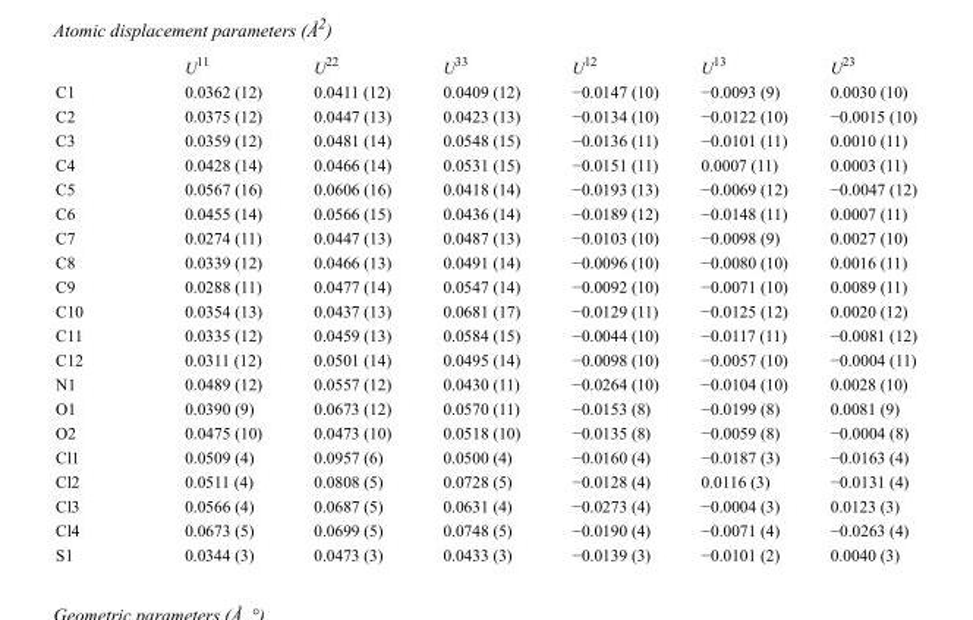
<table><thead><tr><td></td><td>U<sup>11</sup></td><td>U<sup>22</sup></td><td>U<sup>33</sup></td><td>U<sup>12</sup></td><td>U<sup>13</sup></td><td>U<sup>23</sup></td></tr></thead><tbody><tr><td>C1</td><td>0.0362 (12)</td><td>0.0411 (12)</td><td>0.0409 (12)</td><td>−0.0147 (10)</td><td>−0.0093 (9)</td><td>0.0030 (10)</td></tr><tr><td>C2</td><td>0.0375 (12)</td><td>0.0447 (13)</td><td>0.0423 (13)</td><td>−0.0134 (10)</td><td>−0.0122 (10)</td><td>−0.0015 (10)</td></tr><tr><td>C3</td><td>0.0359 (12)</td><td>0.0481 (14)</td><td>0.0548 (15)</td><td>−0.0136 (11)</td><td>−0.0101 (11)</td><td>0.0010 (11)</td></tr><tr><td>C4</td><td>0.0428 (14)</td><td>0.0466 (14)</td><td>0.0531 (15)</td><td>−0.0151 (11)</td><td>0.0007 (11)</td><td>0.0003 (11)</td></tr><tr><td>C5</td><td>0.0567 (16)</td><td>0.0606 (16)</td><td>0.0418 (14)</td><td>−0.0193 (13)</td><td>−0.0069 (12)</td><td>−0.0047 (12)</td></tr><tr><td>C6</td><td>0.0455 (14)</td><td>0.0566 (15)</td><td>0.0436 (14)</td><td>−0.0189 (12)</td><td>−0.0148 (11)</td><td>0.0007 (11)</td></tr><tr><td>C7</td><td>0.0274 (11)</td><td>0.0447 (13)</td><td>0.0487 (13)</td><td>−0.0103 (10)</td><td>−0.0098 (9)</td><td>0.0027 (10)</td></tr><tr><td>C8</td><td>0.0339 (12)</td><td>0.0466 (13)</td><td>0.0491 (14)</td><td>−0.0096 (10)</td><td>−0.0080 (10)</td><td>0.0016 (11)</td></tr><tr><td>C9</td><td>0.0288 (11)</td><td>0.0477 (14)</td><td>0.0547 (14)</td><td>−0.0092 (10)</td><td>−0.0071 (10)</td><td>0.0089 (11)</td></tr><tr><td>C10</td><td>0.0354 (13)</td><td>0.0437 (13)</td><td>0.0681 (17)</td><td>−0.0129 (11)</td><td>−0.0125 (12)</td><td>0.0020 (12)</td></tr><tr><td>C11</td><td>0.0335 (12)</td><td>0.0459 (13)</td><td>0.0584 (15)</td><td>−0.0044 (10)</td><td>−0.0117 (11)</td><td>−0.0081 (12)</td></tr><tr><td>C12</td><td>0.0311 (12)</td><td>0.0501 (14)</td><td>0.0495 (14)</td><td>−0.0098 (10)</td><td>−0.0057 (10)</td><td>−0.0004 (11)</td></tr><tr><td>N1</td><td>0.0489 (12)</td><td>0.0557 (12)</td><td>0.0430 (11)</td><td>−0.0264 (10)</td><td>−0.0104 (10)</td><td>0.0028 (10)</td></tr><tr><td>O1</td><td>0.0390 (9)</td><td>0.0673 (12)</td><td>0.0570 (11)</td><td>−0.0153 (8)</td><td>−0.0199 (8)</td><td>0.0081 (9)</td></tr><tr><td>O2</td><td>0.0475 (10)</td><td>0.0473 (10)</td><td>0.0518 (10)</td><td>−0.0135 (8)</td><td>−0.0059 (8)</td><td>−0.0004 (8)</td></tr><tr><td>Cl1</td><td>0.0509 (4)</td><td>0.0957 (6)</td><td>0.0500 (4)</td><td>−0.0160 (4)</td><td>−0.0187 (3)</td><td>−0.0163 (4)</td></tr><tr><td>Cl2</td><td>0.0511 (4)</td><td>0.0808 (5)</td><td>0.0728 (5)</td><td>−0.0128 (4)</td><td>0.0116 (3)</td><td>−0.0131 (4)</td></tr><tr><td>Cl3</td><td>0.0566 (4)</td><td>0.0687 (5)</td><td>0.0631 (4)</td><td>−0.0273 (4)</td><td>−0.0004 (3)</td><td>0.0123 (3)</td></tr><tr><td>Cl4</td><td>0.0673 (5)</td><td>0.0699 (5)</td><td>0.0748 (5)</td><td>−0.0190 (4)</td><td>−0.0071 (4)</td><td>−0.0263 (4)</td></tr><tr><td>S1</td><td>0.0344 (3)</td><td>0.0473 (3)</td><td>0.0433 (3)</td><td>−0.0139 (3)</td><td>−0.0101 (2)</td><td>0.0040 (3)</td></tr></tbody></table>